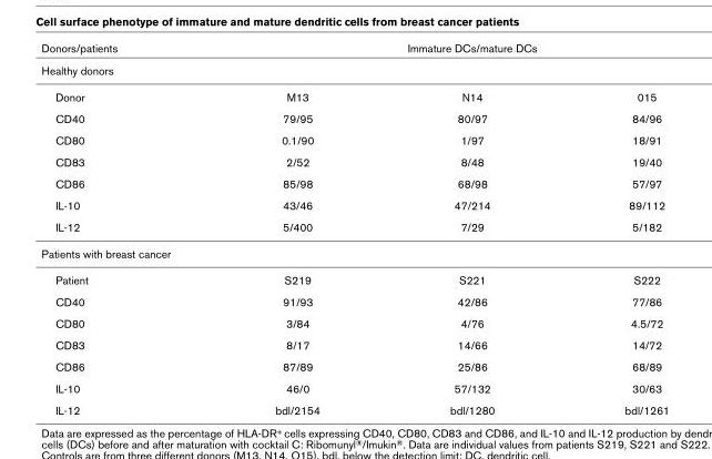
<table><thead><tr><td>Donors/patients</td><td colspan="3">Immature DCs/mature DCs</td></tr><tr><td colspan="4">Healthy donors</td></tr><tr><td>Donor</td><td>M13</td><td>N14</td><td>015</td></tr></thead><tbody><tr><td>CD40</td><td>79/95</td><td>80/97</td><td>84/96</td></tr><tr><td>CD80</td><td>0.1/90</td><td>1/97</td><td>18/91</td></tr><tr><td>CD83</td><td>2/52</td><td>8/48</td><td>19/40</td></tr><tr><td>CD86</td><td>85/98</td><td>68/98</td><td>57/97</td></tr><tr><td>IL-10</td><td>43/46</td><td>47/214</td><td>89/112</td></tr><tr><td>IL-12</td><td>5/400</td><td>7/29</td><td>5/182</td></tr><tr><td colspan="4">Patients with breast cancer</td></tr><tr><td>Patient</td><td>S219</td><td>S221</td><td>S222</td></tr><tr><td>CD40</td><td>91/93</td><td>42/86</td><td>77/86</td></tr><tr><td>CD80</td><td>3/84</td><td>4/76</td><td>4.5/72</td></tr><tr><td>CD83</td><td>8/17</td><td>14/66</td><td>14/72</td></tr><tr><td>CD86</td><td>87/89</td><td>25/86</td><td>68/89</td></tr><tr><td>IL-10</td><td>46/0</td><td>57/132</td><td>30/63</td></tr><tr><td>IL-12</td><td>bdl/2154</td><td>bdl/1280</td><td>bdl/1261</td></tr></tbody></table>